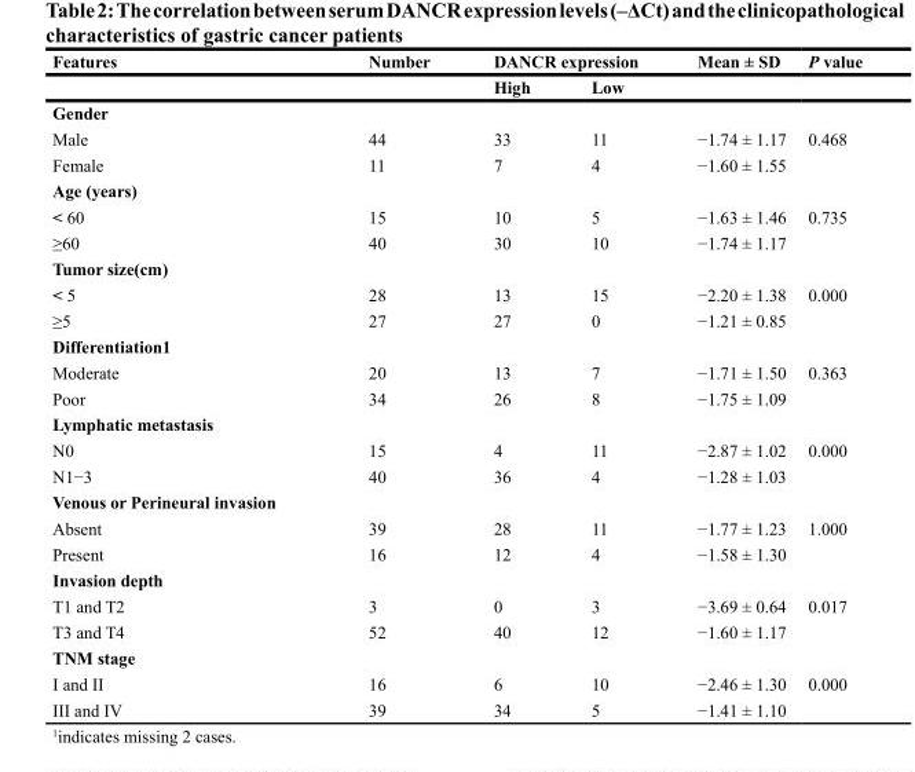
<table><thead><tr><td rowspan="2">Features</td><td rowspan="2">Number</td><td colspan="2">DANCR expression</td><td rowspan="2">Mean ± SD</td><td rowspan="2">P value</td></tr><tr><td>High</td><td>Low</td></tr></thead><tbody><tr><td colspan="6">Gender</td></tr><tr><td>Male</td><td>44</td><td>33</td><td>11</td><td>−1.74 ± 1.17</td><td>0.468</td></tr><tr><td>Female</td><td>11</td><td>7</td><td>4</td><td>−1.60 ± 1.55</td><td></td></tr><tr><td colspan="6">Age (years)</td></tr><tr><td>&lt; 60</td><td>15</td><td>10</td><td>5</td><td>−1.63 ± 1.46</td><td>0.735</td></tr><tr><td>≥60</td><td>40</td><td>30</td><td>10</td><td>−1.74 ± 1.17</td><td></td></tr><tr><td colspan="6">Tumor size(cm)</td></tr><tr><td>&lt; 5</td><td>28</td><td>13</td><td>15</td><td>−2.20 ± 1.38</td><td>0.000</td></tr><tr><td>≥5</td><td>27</td><td>27</td><td>0</td><td>−1.21 ± 0.85</td><td></td></tr><tr><td colspan="6">Differentiation1</td></tr><tr><td>Moderate</td><td>20</td><td>13</td><td>7</td><td>−1.71 ± 1.50</td><td>0.363</td></tr><tr><td>Poor</td><td>34</td><td>26</td><td>8</td><td>−1.75 ± 1.09</td><td></td></tr><tr><td colspan="6">Lymphatic metastasis</td></tr><tr><td>N0</td><td>15</td><td>4</td><td>11</td><td>−2.87 ± 1.02</td><td>0.000</td></tr><tr><td>N1−3</td><td>40</td><td>36</td><td>4</td><td>−1.28 ± 1.03</td><td></td></tr><tr><td colspan="6">Venous or Perineural invasion</td></tr><tr><td>Absent</td><td>39</td><td>28</td><td>11</td><td>−1.77 ± 1.23</td><td>1.000</td></tr><tr><td>Present</td><td>16</td><td>12</td><td>4</td><td>−1.58 ± 1.30</td><td></td></tr><tr><td colspan="6">Invasion depth</td></tr><tr><td>T1 and T2</td><td>3</td><td>0</td><td>3</td><td>−3.69 ± 0.64</td><td>0.017</td></tr><tr><td>T3 and T4</td><td>52</td><td>40</td><td>12</td><td>−1.60 ± 1.17</td><td></td></tr><tr><td colspan="6">TNM stage</td></tr><tr><td>I and II</td><td>16</td><td>6</td><td>10</td><td>−2.46 ± 1.30</td><td>0.000</td></tr><tr><td>III and IV</td><td>39</td><td>34</td><td>5</td><td>−1.41 ± 1.10</td><td></td></tr></tbody></table>